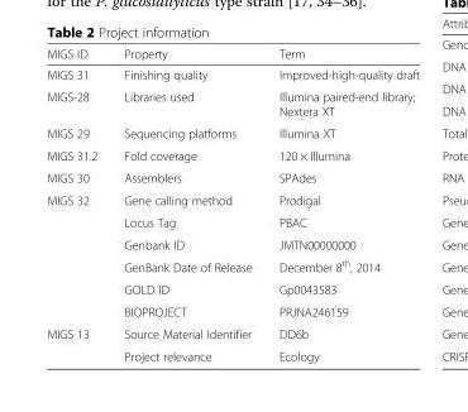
<table><thead><tr><td>MIGS ID</td><td>Property</td><td>Term</td></tr></thead><tbody><tr><td>MIGS 31</td><td>Finishing quality</td><td>Improved-high-quality draft</td></tr><tr><td>MIGS-28</td><td>Libraries used</td><td>Illumina paired-end library; Nextera XT</td></tr><tr><td>MIGS 29</td><td>Sequencing platforms</td><td>Illumina XT</td></tr><tr><td>MIGS 31.2</td><td>Fold coverage</td><td>120 × Illumina</td></tr><tr><td>MIGS 30</td><td>Assemblers</td><td>SPAdes</td></tr><tr><td rowspan="6">MIGS 32</td><td>Gene calling method</td><td>Prodigal</td></tr><tr><td>Locus Tag</td><td>PBAC</td></tr><tr><td>Genbank ID</td><td>JMTN00000000</td></tr><tr><td>GenBank Date of Release</td><td>December 8<sup>th</sup>, 2014</td></tr><tr><td>GOLD ID</td><td>Gp0043583</td></tr><tr><td>BIOPROJECT</td><td>PRJNA246159</td></tr><tr><td rowspan="2">MIGS 13</td><td>Source Material Identifier</td><td>DD6b</td></tr><tr><td>Project relevance</td><td>Ecology</td></tr></tbody></table>